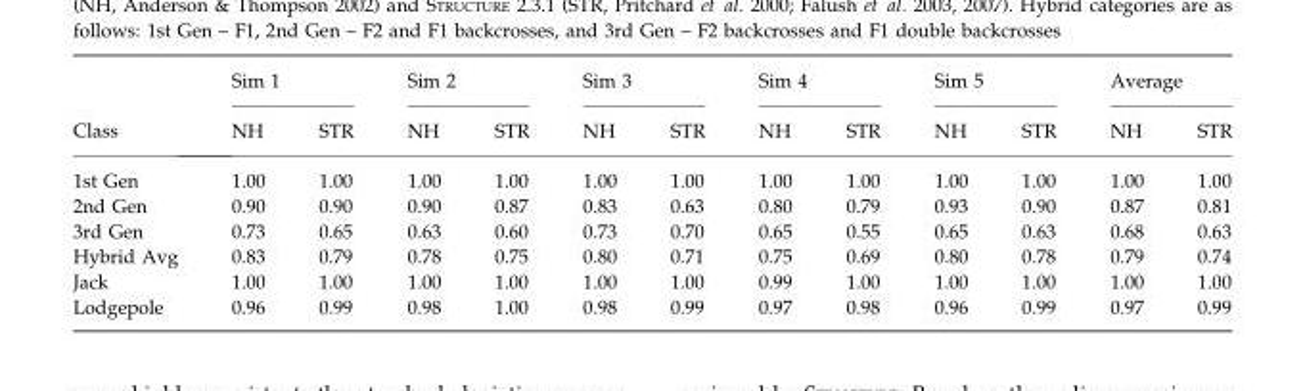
<table><thead><tr><td rowspan="2">Class</td><td colspan="2">Sim 1</td><td colspan="2">Sim 2</td><td colspan="2">Sim 3</td><td colspan="2">Sim 4</td><td colspan="2">Sim 5</td><td colspan="2">Average</td></tr><tr><td>NH</td><td>STR</td><td>NH</td><td>STR</td><td>NH</td><td>STR</td><td>NH</td><td>STR</td><td>NH</td><td>STR</td><td>NH</td><td>STR</td></tr></thead><tbody><tr><td>1st Gen</td><td>1.00</td><td>1.00</td><td>1.00</td><td>1.00</td><td>1.00</td><td>1.00</td><td>1.00</td><td>1.00</td><td>1.00</td><td>1.00</td><td>1.00</td><td>1.00</td></tr><tr><td>2nd Gen</td><td>0.90</td><td>0.90</td><td>0.90</td><td>0.87</td><td>0.83</td><td>0.63</td><td>0.80</td><td>0.79</td><td>0.93</td><td>0.90</td><td>0.87</td><td>0.81</td></tr><tr><td>3rd Gen</td><td>0.73</td><td>0.65</td><td>0.63</td><td>0.60</td><td>0.73</td><td>0.70</td><td>0.65</td><td>0.55</td><td>0.65</td><td>0.63</td><td>0.68</td><td>0.63</td></tr><tr><td>Hybrid Avg</td><td>0.83</td><td>0.79</td><td>0.78</td><td>0.75</td><td>0.80</td><td>0.71</td><td>0.75</td><td>0.69</td><td>0.80</td><td>0.78</td><td>0.79</td><td>0.74</td></tr><tr><td>Jack</td><td>1.00</td><td>1.00</td><td>1.00</td><td>1.00</td><td>1.00</td><td>1.00</td><td>0.99</td><td>1.00</td><td>1.00</td><td>1.00</td><td>1.00</td><td>1.00</td></tr><tr><td>Lodgepole</td><td>0.96</td><td>0.99</td><td>0.98</td><td>1.00</td><td>0.98</td><td>0.99</td><td>0.97</td><td>0.98</td><td>0.96</td><td>0.99</td><td>0.97</td><td>0.99</td></tr></tbody></table>